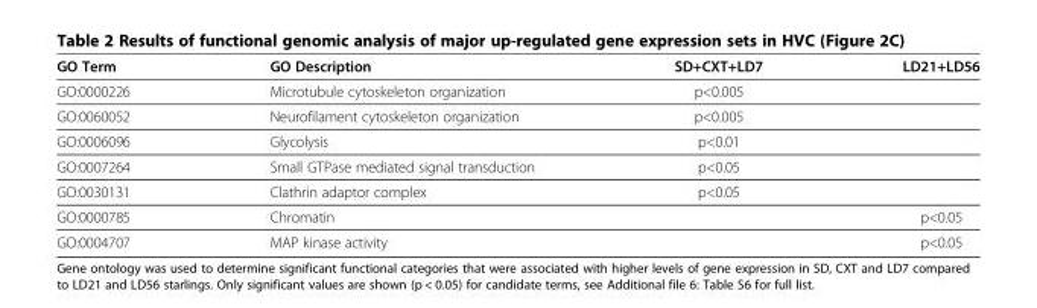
<table><thead><tr><td>GO Term</td><td>GO Description</td><td>SD+CXT+LD7</td><td>LD21+LD56</td></tr></thead><tbody><tr><td>GO:0000226</td><td>Microtubule cytoskeleton organization</td><td>p&lt;0.005</td><td></td></tr><tr><td>GO:0060052</td><td>Neurofilament cytoskeleton organization</td><td>p&lt;0.005</td><td></td></tr><tr><td>GO:0006096</td><td>Glycolysis</td><td>p&lt;0.01</td><td></td></tr><tr><td>GO:0007264</td><td>Small GTPase mediated signal transduction</td><td>p&lt;0.05</td><td></td></tr><tr><td>GO:0030131</td><td>Clathrin adaptor complex</td><td>p&lt;0.05</td><td></td></tr><tr><td>GO:0000785</td><td>Chromatin</td><td></td><td>p&lt;0.05</td></tr><tr><td>GO:0004707</td><td>MAP kinase activity</td><td></td><td>p&lt;0.05</td></tr></tbody></table>